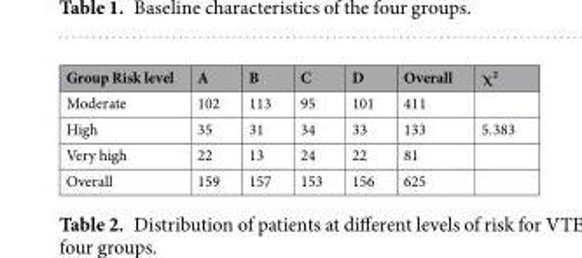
<table><thead><tr><td>Group Risk level</td><td>A</td><td>B</td><td>C</td><td>D</td><td>Overall</td><td>χ<sup>2</sup></td></tr></thead><tbody><tr><td>Moderate</td><td>102</td><td>113</td><td>95</td><td>101</td><td>411</td><td></td></tr><tr><td>High</td><td>35</td><td>31</td><td>34</td><td>33</td><td>133</td><td>5.383</td></tr><tr><td>Very high</td><td>22</td><td>13</td><td>24</td><td>22</td><td>81</td><td></td></tr><tr><td>Overall</td><td>159</td><td>157</td><td>153</td><td>156</td><td>625</td><td></td></tr></tbody></table>